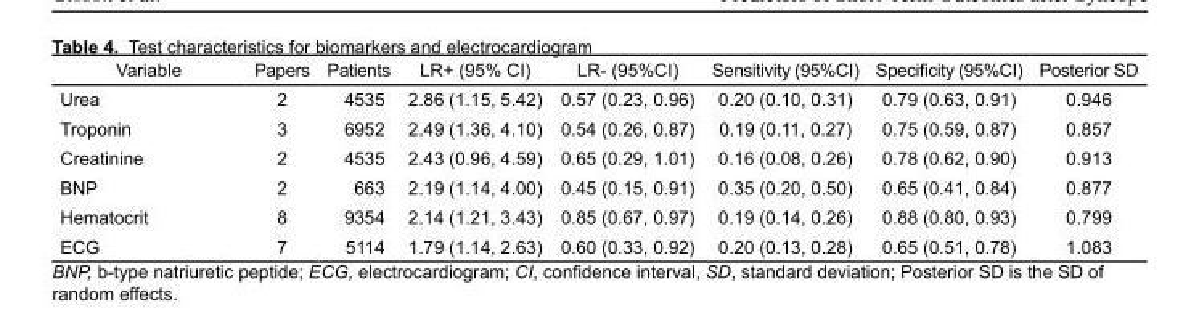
<table><thead><tr><td>Variable</td><td>Papers</td><td>Patients</td><td>LR+ (95% CI)</td><td>LR- (95%CI)</td><td>Sensitivity (95%CI)</td><td>Specificity (95%CI)</td><td>Posterior SD</td></tr></thead><tbody><tr><td>Urea</td><td>2</td><td>4535</td><td>2.86 (1.15, 5.42)</td><td>0.57 (0.23, 0.96)</td><td>0.20 (0.10, 0.31)</td><td>0.79 (0.63, 0.91)</td><td>0.946</td></tr><tr><td>Troponin</td><td>3</td><td>6952</td><td>2.49 (1.36, 4.10)</td><td>0.54 (0.26, 0.87)</td><td>0.19 (0.11, 0.27)</td><td>0.75 (0.59, 0.87)</td><td>0.857</td></tr><tr><td>Creatinine</td><td>2</td><td>4535</td><td>2.43 (0.96, 4.59)</td><td>0.65 (0.29, 1.01)</td><td>0.16 (0.08, 0.26)</td><td>0.78 (0.62, 0.90)</td><td>0.913</td></tr><tr><td>BNP</td><td>2</td><td>663</td><td>2.19 (1.14, 4.00)</td><td>0.45 (0.15, 0.91)</td><td>0.35 (0.20, 0.50)</td><td>0.65 (0.41, 0.84)</td><td>0.877</td></tr><tr><td>Hematocrit</td><td>8</td><td>9354</td><td>2.14 (1.21, 3.43)</td><td>0.85 (0.67, 0.97)</td><td>0.19 (0.14, 0.26)</td><td>0.88 (0.80, 0.93)</td><td>0.799</td></tr><tr><td>ECG</td><td>7</td><td>5114</td><td>1.79 (1.14, 2.63)</td><td>0.60 (0.33, 0.92)</td><td>0.20 (0.13, 0.28)</td><td>0.65 (0.51, 0.78)</td><td>1.083</td></tr></tbody></table>